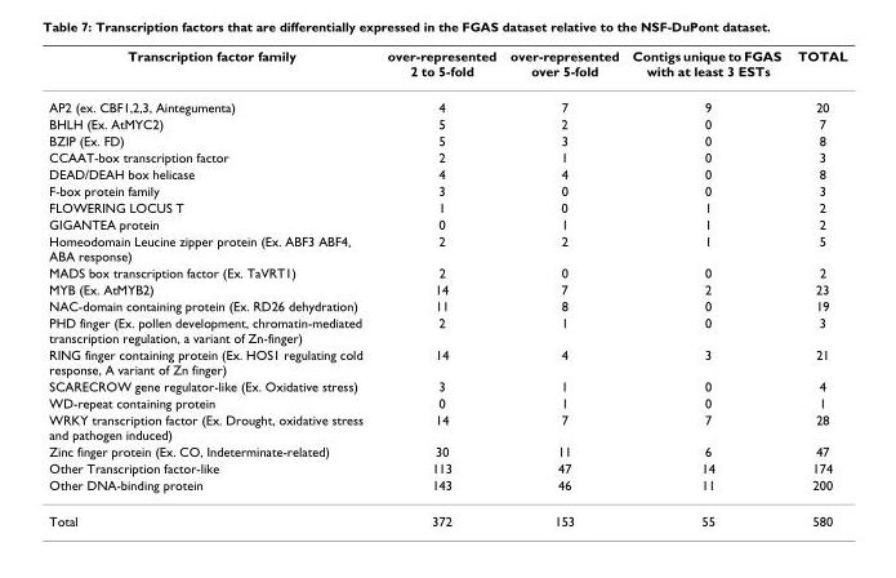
<table><thead><tr><td>Transcription factor family</td><td>over-represented 2 to 5-fold</td><td>over-represented over 5-fold</td><td>Contigs unique to FGAS with at least 3 ESTs</td><td>TOTAL</td></tr></thead><tbody><tr><td>AP2 (ex. CBF1,2,3, Aintegumenta)</td><td>4</td><td>7</td><td>9</td><td>20</td></tr><tr><td>BHLH (Ex. AtMYC2)</td><td>5</td><td>2</td><td>0</td><td>7</td></tr><tr><td>BZIP (Ex. FD)</td><td>5</td><td>3</td><td>0</td><td>8</td></tr><tr><td>CCAAT-box transcription factor</td><td>2</td><td>1</td><td>0</td><td>3</td></tr><tr><td>DEAD/DEAH box helicase</td><td>4</td><td>4</td><td>0</td><td>8</td></tr><tr><td>F-box protein family</td><td>3</td><td>0</td><td>0</td><td>3</td></tr><tr><td>FLOWERING LOCUS T</td><td>1</td><td>0</td><td>1</td><td>2</td></tr><tr><td>GIGANTEA protein</td><td>0</td><td>1</td><td>1</td><td>2</td></tr><tr><td>Homeodomain Leucine zipper protein (Ex. ABF3 ABF4, ABA response)</td><td>2</td><td>2</td><td>1</td><td>5</td></tr><tr><td>MADS box transcription factor (Ex. TaVRT1)</td><td>2</td><td>0</td><td>0</td><td>2</td></tr><tr><td>MYB (Ex. AtMYB2)</td><td>14</td><td>7</td><td>2</td><td>23</td></tr><tr><td>NAC-domain containing protein (Ex. RD26 dehydration)</td><td>11</td><td>8</td><td>0</td><td>19</td></tr><tr><td>PHD finger (Ex. pollen development, chromatin-mediated transcription regulation, a variant of Zn-finger)</td><td>2</td><td>1</td><td>0</td><td>3</td></tr><tr><td>RING finger containing protein (Ex. HOS1 regulating cold response, A variant of Zn finger)</td><td>14</td><td>4</td><td>3</td><td>21</td></tr><tr><td>SCARECROW gene regulator-like (Ex. Oxidative stress)</td><td>3</td><td>1</td><td>0</td><td>4</td></tr><tr><td>WD-repeat containing protein</td><td>0</td><td>1</td><td>0</td><td>1</td></tr><tr><td>WRKY transcription factor (Ex. Drought, oxidative stress and pathogen induced)</td><td>14</td><td>7</td><td>7</td><td>28</td></tr><tr><td>Zinc finger protein (Ex. CO, Indeterminate-related)</td><td>30</td><td>11</td><td>6</td><td>47</td></tr><tr><td>Other Transcription factor-like</td><td>113</td><td>47</td><td>14</td><td>174</td></tr><tr><td>Other DNA-binding protein</td><td>143</td><td>46</td><td>11</td><td>200</td></tr><tr><td>Total</td><td>372</td><td>153</td><td>55</td><td>580</td></tr></tbody></table>